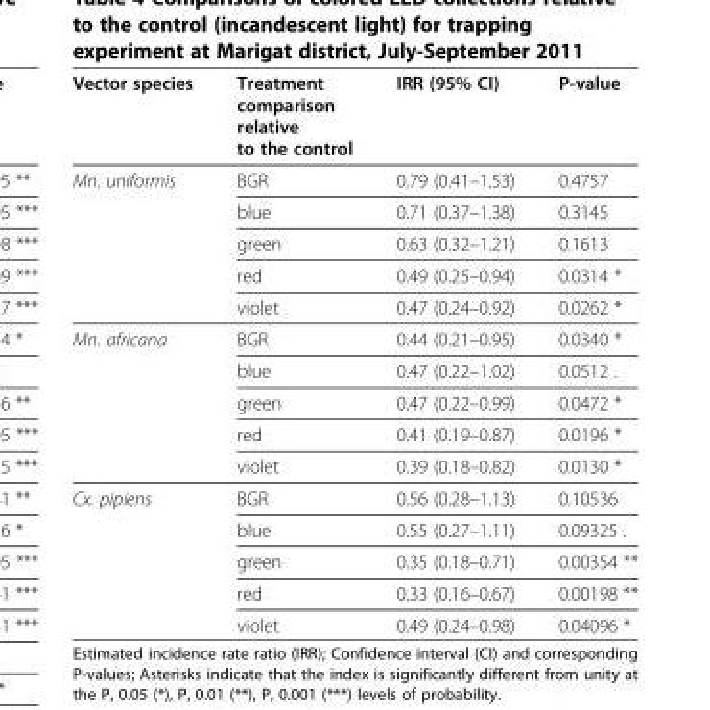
<table><thead><tr><td>Vector species</td><td>Treatment comparison relative to the control</td><td>IRR (95% CI)</td><td>P-value</td></tr></thead><tbody><tr><td rowspan="5">Mn. uniformis</td><td>BGR</td><td>0.79 (0.41–1.53)</td><td>0.4757</td></tr><tr><td>blue</td><td>0.71 (0.37–1.38)</td><td>0.3145</td></tr><tr><td>green</td><td>0.63 (0.32–1.21)</td><td>0.1613</td></tr><tr><td>red</td><td>0.49 (0.25–0.94)</td><td>0.0314 *</td></tr><tr><td>violet</td><td>0.47 (0.24–0.92)</td><td>0.0262 *</td></tr><tr><td rowspan="5">Mn. africana</td><td>BGR</td><td>0.44 (0.21–0.95)</td><td>0.0340 *</td></tr><tr><td>blue</td><td>0.47 (0.22–1.02)</td><td>0.0512 .</td></tr><tr><td>green</td><td>0.47 (0.22–0.99)</td><td>0.0472 *</td></tr><tr><td>red</td><td>0.41 (0.19–0.87)</td><td>0.0196 *</td></tr><tr><td>violet</td><td>0.39 (0.18–0.82)</td><td>0.0130 *</td></tr><tr><td rowspan="5">Cx. pipiens</td><td>BGR</td><td>0.56 (0.28–1.13)</td><td>0.10536</td></tr><tr><td>blue</td><td>0.55 (0.27–1.11)</td><td>0.09325 .</td></tr><tr><td>green</td><td>0.35 (0.18–0.71)</td><td>0.00354 **</td></tr><tr><td>red</td><td>0.33 (0.16–0.67)</td><td>0.00198 **</td></tr><tr><td>violet</td><td>0.49 (0.24–0.98)</td><td>0.04096 *</td></tr></tbody></table>